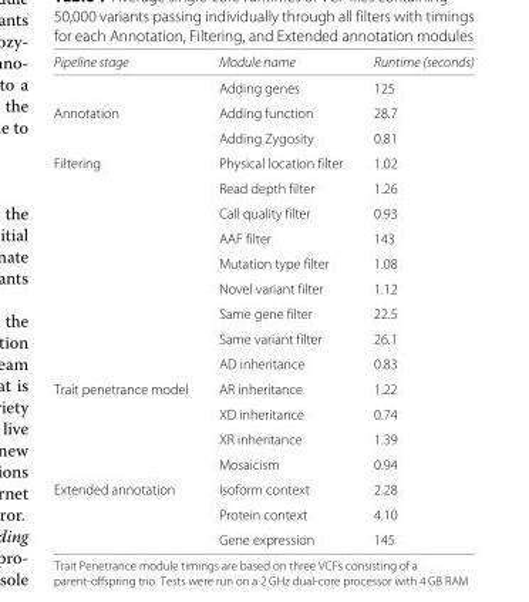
<table><thead><tr><td>Pipeline stage</td><td>Module name</td><td>Runtime (seconds)</td></tr></thead><tbody><tr><td></td><td>Adding genes</td><td>125</td></tr><tr><td rowspan="2">Annotation</td><td>Adding function</td><td>28.7</td></tr><tr><td>Adding Zygosity</td><td>0.81</td></tr><tr><td rowspan="9">Filtering</td><td>Physical location filter</td><td>1.02</td></tr><tr><td>Read depth filter</td><td>1.26</td></tr><tr><td>Call quality filter</td><td>0.93</td></tr><tr><td>AAF filter</td><td>143</td></tr><tr><td>Mutation type filter</td><td>1.08</td></tr><tr><td>Novel variant filter</td><td>1.12</td></tr><tr><td>Same gene filter</td><td>22.5</td></tr><tr><td>Same variant filter</td><td>26.1</td></tr><tr><td>AD inheritance</td><td>0.83</td></tr><tr><td rowspan="4">Trait penetrance model</td><td>AR inheritance</td><td>1.22</td></tr><tr><td>XD inheritance</td><td>0.74</td></tr><tr><td>XR inheritance</td><td>1.39</td></tr><tr><td>Mosaicism</td><td>0.94</td></tr><tr><td rowspan="3">Extended annotation</td><td>Isoform context</td><td>2.28</td></tr><tr><td>Protein context</td><td>4.10</td></tr><tr><td>Gene expression</td><td>145</td></tr></tbody></table>